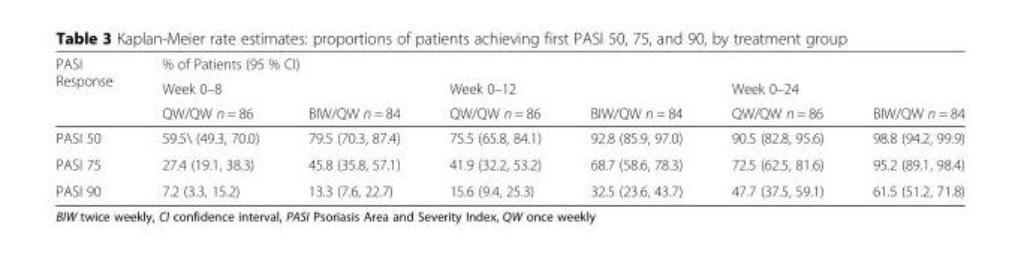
<table><thead><tr><td rowspan="3">PASI Response</td><td colspan="6">% of Patients (95 % CI)</td></tr><tr><td colspan="2">Week 0–8</td><td colspan="2">Week 0–12</td><td colspan="2">Week 0–24</td></tr><tr><td>QW/QW n = 86</td><td>BIW/QW n = 84</td><td>QW/QW n = 86</td><td>BIW/QW n = 84</td><td>QW/QW n = 86</td><td>BIW/QW n = 84</td></tr></thead><tbody><tr><td>PASI 50</td><td>59.5\ (49.3, 70.0)</td><td>79.5 (70.3, 87.4)</td><td>75.5 (65.8, 84.1)</td><td>92.8 (85.9, 97.0)</td><td>90.5 (82.8, 95.6)</td><td>98.8 (94.2, 99.9)</td></tr><tr><td>PASI 75</td><td>27.4 (19.1, 38.3)</td><td>45.8 (35.8, 57.1)</td><td>41.9 (32.2, 53.2)</td><td>68.7 (58.6, 78.3)</td><td>72.5 (62.5, 81.6)</td><td>95.2 (89.1, 98.4)</td></tr><tr><td>PASI 90</td><td>7.2 (3.3, 15.2)</td><td>13.3 (7.6, 22.7)</td><td>15.6 (9.4, 25.3)</td><td>32.5 (23.6, 43.7)</td><td>47.7 (37.5, 59.1)</td><td>61.5 (51.2, 71.8)</td></tr></tbody></table>